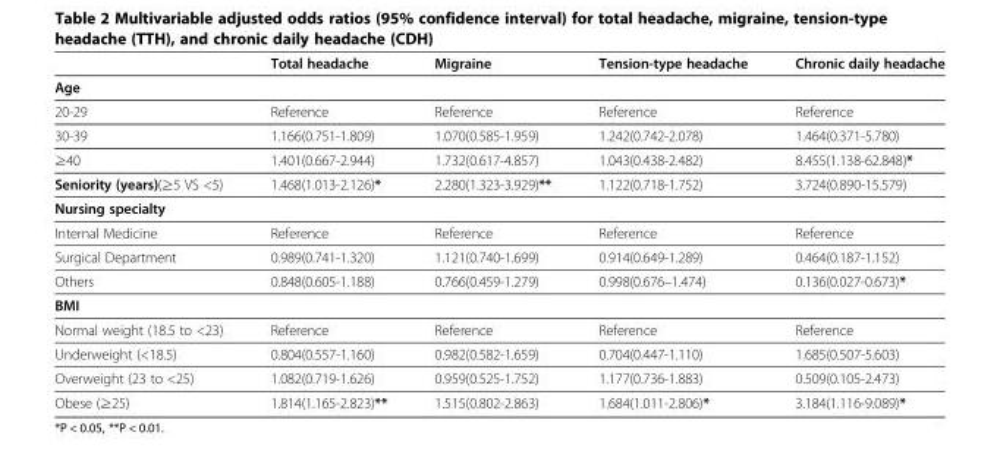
<table><thead><tr><td></td><td>Total headache</td><td>Migraine</td><td>Tension-type headache</td><td>Chronic daily headache</td></tr></thead><tbody><tr><td colspan="5">Age</td></tr><tr><td>20-29</td><td>Reference</td><td>Reference</td><td>Reference</td><td>Reference</td></tr><tr><td>30-39</td><td>1.166(0.751-1.809)</td><td>1.070(0.585-1.959)</td><td>1.242(0.742-2.078)</td><td>1.464(0.371-5.780)</td></tr><tr><td>≥40</td><td>1.401(0.667-2.944)</td><td>1.732(0.617-4.857)</td><td>1.043(0.438-2.482)</td><td>8.455(1.138-62.848)*</td></tr><tr><td>Seniority (years)(≥5 VS &lt;5)</td><td>1.468(1.013-2.126)*</td><td>2.280(1.323-3.929)**</td><td>1.122(0.718-1.752)</td><td>3.724(0.890-15.579)</td></tr><tr><td colspan="5">Nursing specialty</td></tr><tr><td>Internal Medicine</td><td>Reference</td><td>Reference</td><td>Reference</td><td>Reference</td></tr><tr><td>Surgical Department</td><td>0.989(0.741-1.320)</td><td>1.121(0.740-1.699)</td><td>0.914(0.649-1.289)</td><td>0.464(0.187-1.152)</td></tr><tr><td>Others</td><td>0.848(0.605-1.188)</td><td>0.766(0.459-1.279)</td><td>0.998(0.676–1.474)</td><td>0.136(0.027-0.673)*</td></tr><tr><td colspan="5">BMI</td></tr><tr><td>Normal weight (18.5 to &lt;23)</td><td>Reference</td><td>Reference</td><td>Reference</td><td>Reference</td></tr><tr><td>Underweight (&lt;18.5)</td><td>0.804(0.557-1.160)</td><td>0.982(0.582-1.659)</td><td>0.704(0.447-1.110)</td><td>1.685(0.507-5.603)</td></tr><tr><td>Overweight (23 to &lt;25)</td><td>1.082(0.719-1.626)</td><td>0.959(0.525-1.752)</td><td>1.177(0.736-1.883)</td><td>0.509(0.105-2.473)</td></tr><tr><td>Obese (≥25)</td><td>1.814(1.165-2.823)**</td><td>1.515(0.802-2.863)</td><td>1.684(1.011-2.806)*</td><td>3.184(1.116-9.089)*</td></tr></tbody></table>